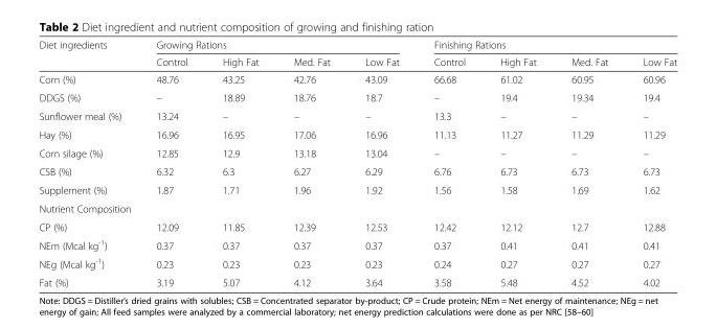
<table><thead><tr><td rowspan="2">Diet ingredients</td><td colspan="4">Growing Rations</td><td colspan="4">Finishing Rations</td></tr><tr><td>Control</td><td>High Fat</td><td>Med. Fat</td><td>Low Fat</td><td>Control</td><td>High Fat</td><td>Med. Fat</td><td>Low Fat</td></tr></thead><tbody><tr><td>Corn (%)</td><td>48.76</td><td>43.25</td><td>42.76</td><td>43.09</td><td>66.68</td><td>61.02</td><td>60.95</td><td>60.96</td></tr><tr><td>DDGS (%)</td><td>–</td><td>18.89</td><td>18.76</td><td>18.7</td><td>–</td><td>19.4</td><td>19.34</td><td>19.4</td></tr><tr><td>Sunflower meal (%)</td><td>13.24</td><td>–</td><td>–</td><td>–</td><td>13.3</td><td>–</td><td>–</td><td>–</td></tr><tr><td>Hay (%)</td><td>16.96</td><td>16.95</td><td>17.06</td><td>16.96</td><td>11.13</td><td>11.27</td><td>11.29</td><td>11.29</td></tr><tr><td>Corn silage (%)</td><td>12.85</td><td>12.9</td><td>13.18</td><td>13.04</td><td>–</td><td>–</td><td>–</td><td>–</td></tr><tr><td>CSB (%)</td><td>6.32</td><td>6.3</td><td>6.27</td><td>6.29</td><td>6.76</td><td>6.73</td><td>6.73</td><td>6.73</td></tr><tr><td>Supplement (%)</td><td>1.87</td><td>1.71</td><td>1.96</td><td>1.92</td><td>1.56</td><td>1.58</td><td>1.69</td><td>1.62</td></tr><tr><td colspan="9">Nutrient Composition</td></tr><tr><td>CP (%)</td><td>12.09</td><td>11.85</td><td>12.39</td><td>12.53</td><td>12.42</td><td>12.12</td><td>12.7</td><td>12.88</td></tr><tr><td>NEm (Mcal kg<sup>-1</sup>)</td><td>0.37</td><td>0.37</td><td>0.37</td><td>0.37</td><td>0.37</td><td>0.41</td><td>0.41</td><td>0.41</td></tr><tr><td>NEg (Mcal kg<sup>-1</sup>)</td><td>0.23</td><td>0.23</td><td>0.23</td><td>0.23</td><td>0.24</td><td>0.27</td><td>0.27</td><td>0.27</td></tr><tr><td>Fat (%)</td><td>3.19</td><td>5.07</td><td>4.12</td><td>3.64</td><td>3.58</td><td>5.48</td><td>4.52</td><td>4.02</td></tr></tbody></table>